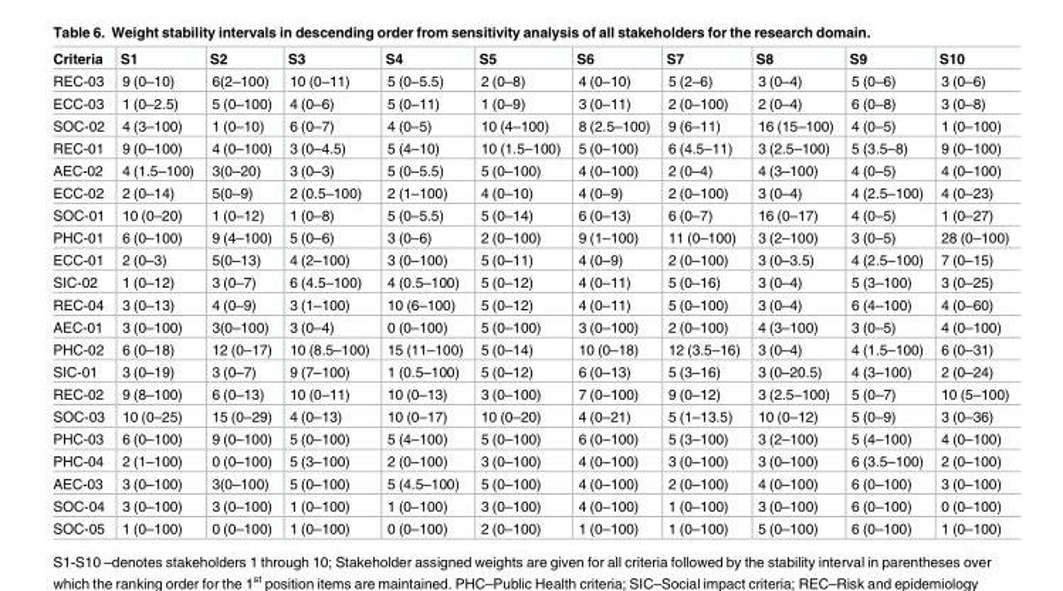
<table><thead><tr><td>Criteria</td><td>S1</td><td>S2</td><td>S3</td><td>S4</td><td>S5</td><td>S6</td><td>S7</td><td>S8</td><td>S9</td><td>S10</td></tr></thead><tbody><tr><td>REC-03</td><td>9 (0–10)</td><td>6(2–100)</td><td>10 (0–11)</td><td>5 (0–5.5)</td><td>2 (0–8)</td><td>4 (0–10)</td><td>5 (2–6)</td><td>3 (0–4)</td><td>5 (0–6)</td><td>3 (0–6)</td></tr><tr><td>ECC-03</td><td>1 (0–2.5)</td><td>5 (0–100)</td><td>4 (0–6)</td><td>5 (0–11)</td><td>1 (0–9)</td><td>3 (0–11)</td><td>2 (0–100)</td><td>2 (0–4)</td><td>6 (0–8)</td><td>3 (0–8)</td></tr><tr><td>SOC-02</td><td>4 (3–100)</td><td>1 (0–10)</td><td>6 (0–7)</td><td>4 (0–5)</td><td>10 (4–100)</td><td>8 (2.5–100)</td><td>9 (6–11)</td><td>16 (15–100)</td><td>4 (0–5)</td><td>1 (0–100)</td></tr><tr><td>REC-01</td><td>9 (0–100)</td><td>4 (0–100)</td><td>3 (0–4.5)</td><td>5 (4–10)</td><td>10 (1.5–100)</td><td>5 (0–100)</td><td>6 (4.5–11)</td><td>3 (2.5–100)</td><td>5 (3.5–8)</td><td>9 (0–100)</td></tr><tr><td>AEC-02</td><td>4 (1.5–100)</td><td>3(0–20)</td><td>3 (0–3)</td><td>5 (0–5.5)</td><td>5 (0–100)</td><td>4 (0–100)</td><td>2 (0–4)</td><td>4 (3–100)</td><td>4 (0–5)</td><td>4 (0–100)</td></tr><tr><td>ECC-02</td><td>2 (0–14)</td><td>5(0–9)</td><td>2 (0.5–100)</td><td>2 (1–100)</td><td>4 (0–10)</td><td>4 (0–9)</td><td>2 (0–100)</td><td>3 (0–4)</td><td>4 (2.5–100)</td><td>4 (0–23)</td></tr><tr><td>SOC-01</td><td>10 (0–20)</td><td>1 (0–12)</td><td>1 (0–8)</td><td>5 (0–5.5)</td><td>5 (0–14)</td><td>6 (0–13)</td><td>6 (0–7)</td><td>16 (0–17)</td><td>4 (0–5)</td><td>1 (0–27)</td></tr><tr><td>PHC-01</td><td>6 (0–100)</td><td>9 (4–100)</td><td>5 (0–6)</td><td>3 (0–6)</td><td>2 (0–100)</td><td>9 (1–100)</td><td>11 (0–100)</td><td>3 (2–100)</td><td>3 (0–5)</td><td>28 (0–100)</td></tr><tr><td>ECC-01</td><td>2 (0–3)</td><td>5(0–13)</td><td>4 (2–100)</td><td>3 (0–100)</td><td>5 (0–11)</td><td>4 (0–9)</td><td>2 (0–100)</td><td>3 (0–3.5)</td><td>4 (2.5–100)</td><td>7 (0–15)</td></tr><tr><td>SIC-02</td><td>1 (0–12)</td><td>3 (0–7)</td><td>6 (4.5–100)</td><td>4 (0.5–100)</td><td>5 (0–12)</td><td>4 (0–11)</td><td>5 (0–16)</td><td>3 (0–4)</td><td>5 (3–100)</td><td>3 (0–25)</td></tr><tr><td>REC-04</td><td>3 (0–13)</td><td>4 (0–9)</td><td>3 (1–100)</td><td>10 (6–100)</td><td>5 (0–12)</td><td>4 (0–11)</td><td>5 (0–100)</td><td>3 (0–4)</td><td>6 (4–100)</td><td>4 (0–60)</td></tr><tr><td>AEC-01</td><td>3 (0–100)</td><td>3(0–100)</td><td>3 (0–4)</td><td>0 (0–100)</td><td>5 (0–100)</td><td>3 (0–100)</td><td>2 (0–100)</td><td>4 (3–100)</td><td>3 (0–5)</td><td>4 (0–100)</td></tr><tr><td>PHC-02</td><td>6 (0–18)</td><td>12 (0–17)</td><td>10 (8.5–100)</td><td>15 (11–100)</td><td>5 (0–14)</td><td>10 (0–18)</td><td>12 (3.5–16)</td><td>3 (0–4)</td><td>4 (1.5–100)</td><td>6 (0–31)</td></tr><tr><td>SIC-01</td><td>3 (0–19)</td><td>3 (0–7)</td><td>9 (7–100)</td><td>1 (0.5–100)</td><td>5 (0–12)</td><td>6 (0–13)</td><td>5 (3–16)</td><td>3 (0–20.5)</td><td>4 (3–100)</td><td>2 (0–24)</td></tr><tr><td>REC-02</td><td>9 (8–100)</td><td>6 (0–13)</td><td>10 (0–11)</td><td>10 (0–13)</td><td>3 (0–100)</td><td>7 (0–100)</td><td>9 (0–12)</td><td>3 (2.5–100)</td><td>5 (0–7)</td><td>10 (5–100)</td></tr><tr><td>SOC-03</td><td>10 (0–25)</td><td>15 (0–29)</td><td>4 (0–13)</td><td>10 (0–17)</td><td>10 (0–20)</td><td>4 (0–21)</td><td>5 (1–13.5)</td><td>10 (0–12)</td><td>5 (0–9)</td><td>3 (0–36)</td></tr><tr><td>PHC-03</td><td>6 (0–100)</td><td>9 (0–100)</td><td>5 (0–100)</td><td>5 (4–100)</td><td>5 (0–100)</td><td>6 (0–100)</td><td>5 (3–100)</td><td>3 (2–100)</td><td>5 (4–100)</td><td>4 (0–100)</td></tr><tr><td>PHC-04</td><td>2 (1–100)</td><td>0 (0–100)</td><td>5 (3–100)</td><td>2 (0–100)</td><td>3 (0–100)</td><td>4 (0–100)</td><td>3 (0–100)</td><td>3 (0–100)</td><td>6 (3.5–100)</td><td>2 (0–100)</td></tr><tr><td>AEC-03</td><td>3 (0–100)</td><td>3(0–100)</td><td>5 (0–100)</td><td>5 (4.5–100)</td><td>5 (0–100)</td><td>4 (0–100)</td><td>2 (0–100)</td><td>4 (0–100)</td><td>6 (0–100)</td><td>3 (0–100)</td></tr><tr><td>SOC-04</td><td>3 (0–100)</td><td>3 (0–100)</td><td>1 (0–100)</td><td>1 (0–100)</td><td>3 (0–100)</td><td>4 (0–100)</td><td>1 (0–100)</td><td>3 (0–100)</td><td>6 (0–100)</td><td>0 (0–100)</td></tr><tr><td>SOC-05</td><td>1 (0–100)</td><td>0 (0–100)</td><td>1 (0–100)</td><td>0 (0–100)</td><td>2 (0–100)</td><td>1 (0–100)</td><td>1 (0–100)</td><td>5 (0–100)</td><td>6 (0–100)</td><td>1 (0–100)</td></tr></tbody></table>